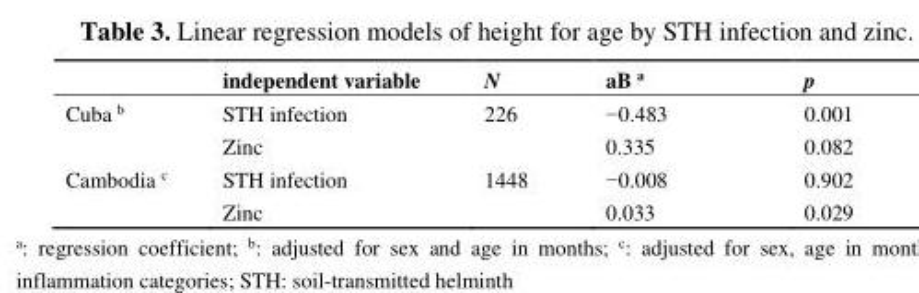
<table><thead><tr><td></td><td>independent variable</td><td>N</td><td>aB <sup>a</sup></td><td>p</td></tr></thead><tbody><tr><td rowspan="2">Cuba <sup>b</sup></td><td>STH infection</td><td>226</td><td>−0.483</td><td>0.001</td></tr><tr><td>Zinc</td><td></td><td>0.335</td><td>0.082</td></tr><tr><td rowspan="2">Cambodia <sup>c</sup></td><td>STH infection</td><td>1448</td><td>−0.008</td><td>0.902</td></tr><tr><td>Zinc</td><td></td><td>0.033</td><td>0.029</td></tr></tbody></table>